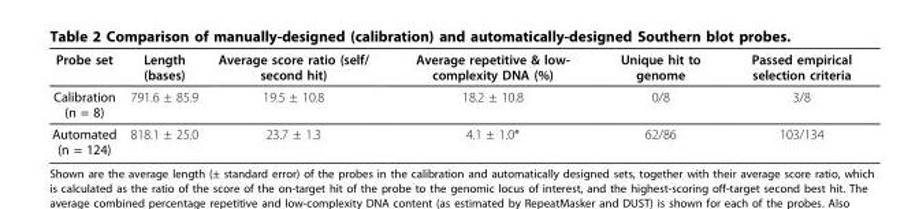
<table><thead><tr><td>Probe set</td><td>Length (bases)</td><td>Average score ratio (self/ second hit)</td><td>Average repetitive &amp; low- complexity DNA (%)</td><td>Unique hit to genome</td><td>Passed empirical selection criteria</td></tr></thead><tbody><tr><td>Calibration (n = 8)</td><td>791.6 ± 85.9</td><td>19.5 ± 10.8</td><td>18.2 ± 10.8</td><td>0/8</td><td>3/8</td></tr><tr><td>Automated (n = 124)</td><td>818.1 ± 25.0</td><td>23.7 ± 1.3</td><td>4.1 ± 1.0*</td><td>62/86</td><td>103/134</td></tr></tbody></table>